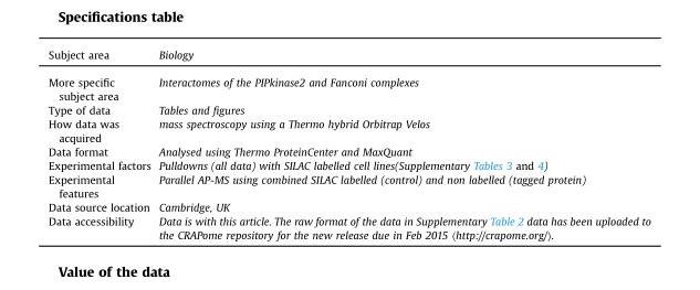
<table><thead><tr><td>Subject area</td><td>Biology</td></tr></thead><tbody><tr><td>More specific subject area</td><td>Interactomes of the PIPkinase2 and Fanconi complexes</td></tr><tr><td>Type of data</td><td>Tables and figures</td></tr><tr><td>How data was acquired</td><td>mass spectroscopy using a Thermo hybrid Orbitrap Velos</td></tr><tr><td>Data format</td><td>Analysed using Thermo ProteinCenter and MaxQuant</td></tr><tr><td>Experimental factors</td><td>Pulldowns (all data) with SILAC labelled cell lines(Supplementary Tables 3 and 4)</td></tr><tr><td>Experimental features</td><td>Parallel AP-MS using combined SILAC labelled (control) and non labelled (tagged protein)</td></tr><tr><td>Data source location</td><td>Cambridge, UK</td></tr><tr><td>Data accessibility</td><td>Data is with this article. The raw format of the data in Supplementary Table 2 data has been uploaded to the CRAPome repository for the new release due in Feb 2015 〈http://crapome.org/〉.</td></tr></tbody></table>